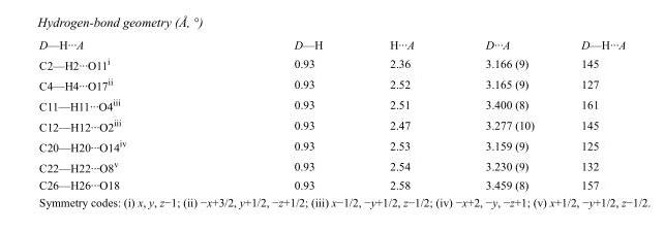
<table><tbody><tr><td>D—H···A</td><td>D—H</td><td>H···A</td><td>D···A</td><td>D—H···A</td></tr><tr><td>C2—H2···O11<sup>i</sup></td><td>0.93</td><td>2.36</td><td>3.166 (9)</td><td>145</td></tr><tr><td>C4—H4···O17<sup>ii</sup></td><td>0.93</td><td>2.52</td><td>3.165 (9)</td><td>127</td></tr><tr><td>C11—H11···O4<sup>iii</sup></td><td>0.93</td><td>2.51</td><td>3.400 (8)</td><td>161</td></tr><tr><td>C12—H12···O2<sup>iii</sup></td><td>0.93</td><td>2.47</td><td>3.277 (10)</td><td>145</td></tr><tr><td>C20—H20···O14<sup>iv</sup></td><td>0.93</td><td>2.53</td><td>3.159 (9)</td><td>125</td></tr><tr><td>C22—H22···O8<sup>v</sup></td><td>0.93</td><td>2.54</td><td>3.230 (9)</td><td>132</td></tr><tr><td>C26—H26···O18</td><td>0.93</td><td>2.58</td><td>3.459 (8)</td><td>157</td></tr></tbody></table>